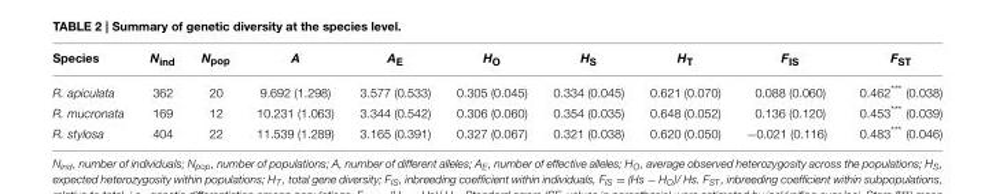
<table><thead><tr><td>Species</td><td>N<sub>ind</sub></td><td>N<sub>pop</sub></td><td>A</td><td>A<sub>E</sub></td><td>H<sub>O</sub></td><td>H<sub>S</sub></td><td>H<sub>T</sub></td><td>F<sub>IS</sub></td><td>F<sub>ST</sub></td></tr></thead><tbody><tr><td>R. apiculata</td><td>362</td><td>20</td><td>9.692 (1.298)</td><td>3.577 (0.533)</td><td>0.305 (0.045)</td><td>0.334 (0.045)</td><td>0.621 (0.070)</td><td>0.088 (0.060)</td><td>0.462*** (0.038)</td></tr><tr><td>R. mucronata</td><td>169</td><td>12</td><td>10.231 (1.063)</td><td>3.344 (0.542)</td><td>0.306 (0.060)</td><td>0.354 (0.035)</td><td>0.648 (0.052)</td><td>0.136 (0.120)</td><td>0.453*** (0.039)</td></tr><tr><td>R. stylosa</td><td>404</td><td>22</td><td>11.539 (1.289)</td><td>3.165 (0.391)</td><td>0.327 (0.067)</td><td>0.321 (0.038)</td><td>0.620 (0.050)</td><td>−0.021 (0.116)</td><td>0.483*** (0.046)</td></tr></tbody></table>